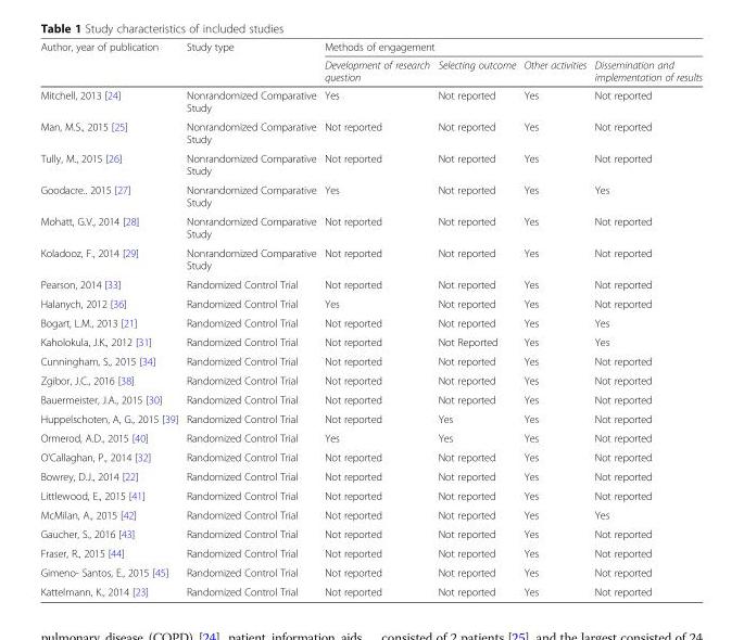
<table><thead><tr><td rowspan="2">Author, year of publication</td><td rowspan="2">Study type</td><td colspan="4">Methods of engagement</td></tr><tr><td>Development of research question</td><td>Selecting outcome</td><td>Other activities</td><td>Dissemination and implementation of results</td></tr></thead><tbody><tr><td>Mitchell, 2013 [24]</td><td>Nonrandomized Comparative Study</td><td>Yes</td><td>Not reported</td><td>Yes</td><td>Not reported</td></tr><tr><td>Man, M.S., 2015 [25]</td><td>Nonrandomized Comparative Study</td><td>Not reported</td><td>Not reported</td><td>Yes</td><td>Not reported</td></tr><tr><td>Tully, M., 2015 [26]</td><td>Nonrandomized Comparative Study</td><td>Not reported</td><td>Not reported</td><td>Yes</td><td>Not reported</td></tr><tr><td>Goodacre.. 2015 [27]</td><td>Nonrandomized Comparative Study</td><td>Yes</td><td>Not reported</td><td>Yes</td><td>Yes</td></tr><tr><td>Mohatt, G.V., 2014 [28]</td><td>Nonrandomized Comparative Study</td><td>Not reported</td><td>Not reported</td><td>Yes</td><td>Not reported</td></tr><tr><td>Koladooz, F., 2014 [29]</td><td>Nonrandomized Comparative Study</td><td>Not reported</td><td>Not reported</td><td>Yes</td><td>Not reported</td></tr><tr><td>Pearson, 2014 [33]</td><td>Randomized Control Trial</td><td>Not reported</td><td>Not reported</td><td>Yes</td><td>Not reported</td></tr><tr><td>Halanych, 2012 [36]</td><td>Randomized Control Trial</td><td>Yes</td><td>Not reported</td><td>Yes</td><td>Not reported</td></tr><tr><td>Bogart, L.M., 2013 [21]</td><td>Randomized Control Trial</td><td>Not reported</td><td>Not reported</td><td>Yes</td><td>Yes</td></tr><tr><td>Kaholokula, J.K., 2012 [31]</td><td>Randomized Control Trial</td><td>Not reported</td><td>Not Reported</td><td>Yes</td><td>Yes</td></tr><tr><td>Cunningham, S., 2015 [34]</td><td>Randomized Control Trial</td><td>Not reported</td><td>Not reported</td><td>Yes</td><td>Not reported</td></tr><tr><td>Zgibor, J.C., 2016 [38]</td><td>Randomized Control Trial</td><td>Not reported</td><td>Not reported</td><td>Yes</td><td>Not reported</td></tr><tr><td>Bauermeister, J.A., 2015 [30]</td><td>Randomized Control Trial</td><td>Not reported</td><td>Not reported</td><td>Yes</td><td>Not reported</td></tr><tr><td>Huppelschoten, A, G., 2015 [39]</td><td>Randomized Control Trial</td><td>Not reported</td><td>Yes</td><td>Yes</td><td>Not reported</td></tr><tr><td>Ormerod, A.D., 2015 [40]</td><td>Randomized Control Trial</td><td>Yes</td><td>Yes</td><td>Yes</td><td>Not reported</td></tr><tr><td>O’Callaghan, P., 2014 [32]</td><td>Randomized Control Trial</td><td>Not reported</td><td>Not reported</td><td>Yes</td><td>Not reported</td></tr><tr><td>Bowrey, D.J., 2014 [22]</td><td>Randomized Control Trial</td><td>Not reported</td><td>Not reported</td><td>Yes</td><td>Not reported</td></tr><tr><td>Littlewood, E., 2015 [41]</td><td>Randomized Control Trial</td><td>Not reported</td><td>Not reported</td><td>Yes</td><td>Not reported</td></tr><tr><td>McMilan, A., 2015 [42]</td><td>Randomized Control Trial</td><td>Not reported</td><td>Not reported</td><td>Yes</td><td>Yes</td></tr><tr><td>Gaucher, S., 2016 [43]</td><td>Randomized Control Trial</td><td>Not reported</td><td>Not reported</td><td>Yes</td><td>Not reported</td></tr><tr><td>Fraser, R., 2015 [44]</td><td>Randomized Control Trial</td><td>Not reported</td><td>Not reported</td><td>Yes</td><td>Not reported</td></tr><tr><td>Gimeno- Santos, E., 2015 [45]</td><td>Randomized Control Trial</td><td>Not reported</td><td>Not reported</td><td>Yes</td><td>Not reported</td></tr><tr><td>Kattelmann, K., 2014 [23]</td><td>Randomized Control Trial</td><td>Not reported</td><td>Not reported</td><td>Yes</td><td>Not reported</td></tr></tbody></table>